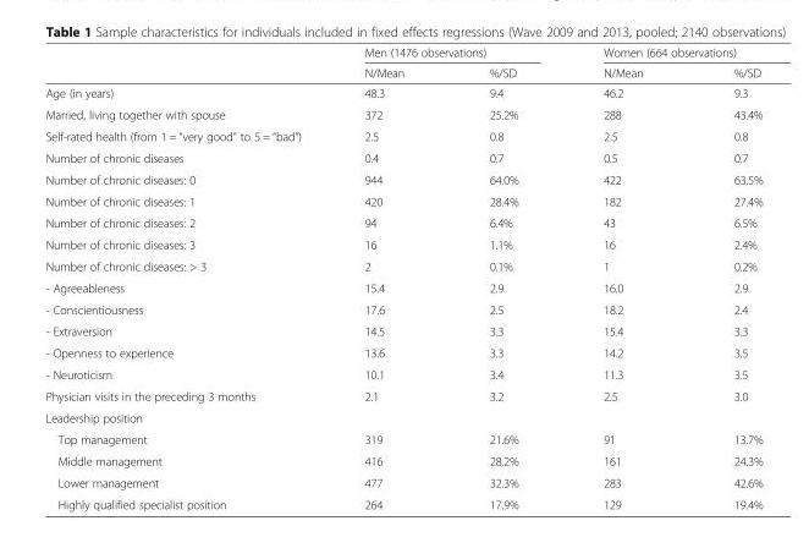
<table><thead><tr><td rowspan="2"></td><td colspan="2">Men (1476 observations)</td><td colspan="2">Women (664 observations)</td></tr><tr><td>N/Mean</td><td>%/SD</td><td>N/Mean</td><td>%/SD</td></tr></thead><tbody><tr><td>Age (in years)</td><td>48.3</td><td>9.4</td><td>46.2</td><td>9.3</td></tr><tr><td>Married, living together with spouse</td><td>372</td><td>25.2%</td><td>288</td><td>43.4%</td></tr><tr><td>Self-rated health (from 1 = “very good” to 5 = “bad”)</td><td>2.5</td><td>0.8</td><td>2.5</td><td>0.8</td></tr><tr><td>Number of chronic diseases</td><td>0.4</td><td>0.7</td><td>0.5</td><td>0.7</td></tr><tr><td>Number of chronic diseases: 0</td><td>944</td><td>64.0%</td><td>422</td><td>63.5%</td></tr><tr><td>Number of chronic diseases: 1</td><td>420</td><td>28.4%</td><td>182</td><td>27.4%</td></tr><tr><td>Number of chronic diseases: 2</td><td>94</td><td>6.4%</td><td>43</td><td>6.5%</td></tr><tr><td>Number of chronic diseases: 3</td><td>16</td><td>1.1%</td><td>16</td><td>2.4%</td></tr><tr><td>Number of chronic diseases: &gt; 3</td><td>2</td><td>0.1%</td><td>1</td><td>0.2%</td></tr><tr><td>- Agreeableness</td><td>15.4</td><td>2.9</td><td>16.0</td><td>2.9</td></tr><tr><td>- Conscientiousness</td><td>17.6</td><td>2.5</td><td>18.2</td><td>2.4</td></tr><tr><td>- Extraversion</td><td>14.5</td><td>3.3</td><td>15.4</td><td>3.3</td></tr><tr><td>- Openness to experience</td><td>13.6</td><td>3.3</td><td>14.2</td><td>3.5</td></tr><tr><td>- Neuroticism</td><td>10.1</td><td>3.4</td><td>11.3</td><td>3.5</td></tr><tr><td>Physician visits in the preceding 3 months</td><td>2.1</td><td>3.2</td><td>2.5</td><td>3.0</td></tr><tr><td colspan="5">Leadership position</td></tr><tr><td>Top management</td><td>319</td><td>21.6%</td><td>91</td><td>13.7%</td></tr><tr><td>Middle management</td><td>416</td><td>28.2%</td><td>161</td><td>24.3%</td></tr><tr><td>Lower management</td><td>477</td><td>32.3%</td><td>283</td><td>42.6%</td></tr><tr><td>Highly qualified specialist position</td><td>264</td><td>17.9%</td><td>129</td><td>19.4%</td></tr></tbody></table>